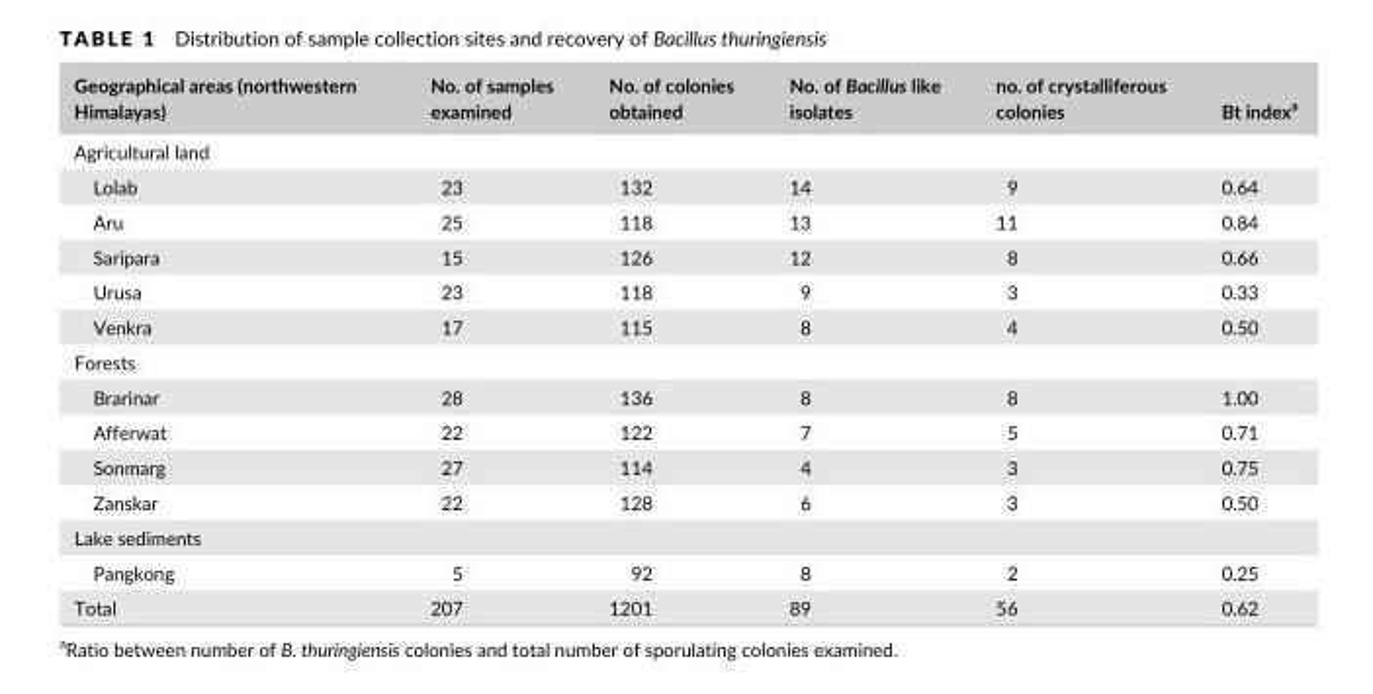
<table><thead><tr><td>Geographical areas (northwestern Himalayas)</td><td>No. of samples examined</td><td>No. of colonies obtained</td><td>No. of Bacillus like isolates</td><td>no. of crystalliferous colonies</td><td>Bt index<sup>a</sup></td></tr></thead><tbody><tr><td colspan="6">Agricultural land</td></tr><tr><td>Lolab</td><td>23</td><td>132</td><td>14</td><td>9</td><td>0.64</td></tr><tr><td>Aru</td><td>25</td><td>118</td><td>13</td><td>11</td><td>0.84</td></tr><tr><td>Saripara</td><td>15</td><td>126</td><td>12</td><td>8</td><td>0.66</td></tr><tr><td>Urusa</td><td>23</td><td>118</td><td>9</td><td>3</td><td>0.33</td></tr><tr><td>Venkra</td><td>17</td><td>115</td><td>8</td><td>4</td><td>0.50</td></tr><tr><td colspan="6">Forests</td></tr><tr><td>Brarinar</td><td>28</td><td>136</td><td>8</td><td>8</td><td>1.00</td></tr><tr><td>Afferwat</td><td>22</td><td>122</td><td>7</td><td>5</td><td>0.71</td></tr><tr><td>Sonmarg</td><td>27</td><td>114</td><td>4</td><td>3</td><td>0.75</td></tr><tr><td>Zanskar</td><td>22</td><td>128</td><td>6</td><td>3</td><td>0.50</td></tr><tr><td colspan="6">Lake sediments</td></tr><tr><td>Pangkong</td><td>5</td><td>92</td><td>8</td><td>2</td><td>0.25</td></tr><tr><td>Total</td><td>207</td><td>1201</td><td>89</td><td>56</td><td>0.62</td></tr></tbody></table>